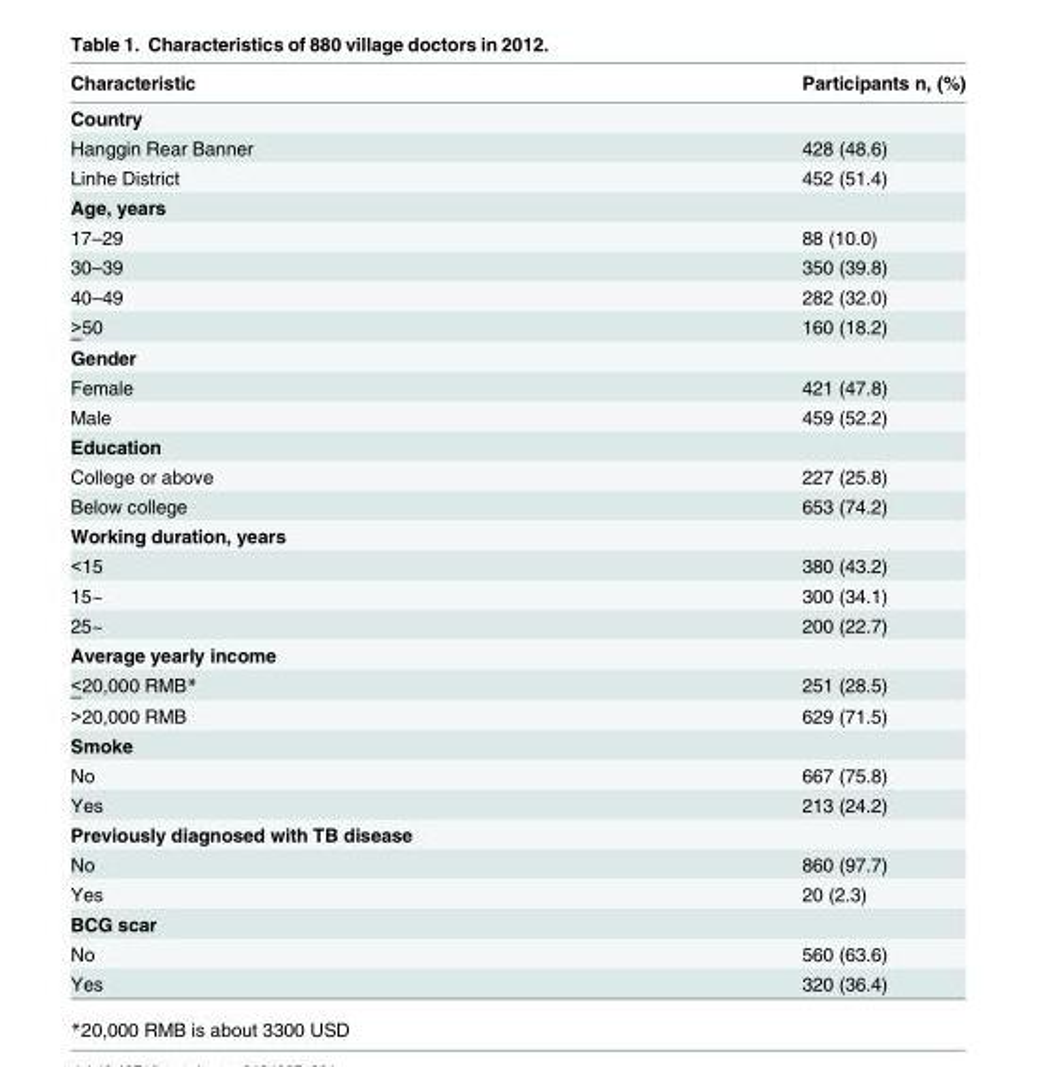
<table><thead><tr><td>Characteristic</td><td>Participants n, (%)</td></tr></thead><tbody><tr><td colspan="2">Country</td></tr><tr><td>Hanggin Rear Banner</td><td>428 (48.6)</td></tr><tr><td>Linhe District</td><td>452 (51.4)</td></tr><tr><td colspan="2">Age, years</td></tr><tr><td>17–29</td><td>88 (10.0)</td></tr><tr><td>30–39</td><td>350 (39.8)</td></tr><tr><td>40–49</td><td>282 (32.0)</td></tr><tr><td>&gt;50</td><td>160 (18.2)</td></tr><tr><td colspan="2">Gender</td></tr><tr><td>Female</td><td>421 (47.8)</td></tr><tr><td>Male</td><td>459 (52.2)</td></tr><tr><td colspan="2">Education</td></tr><tr><td>College or above</td><td>227 (25.8)</td></tr><tr><td>Below college</td><td>653 (74.2)</td></tr><tr><td colspan="2">Working duration, years</td></tr><tr><td>&lt;15</td><td>380 (43.2)</td></tr><tr><td>15~</td><td>300 (34.1)</td></tr><tr><td>25~</td><td>200 (22.7)</td></tr><tr><td colspan="2">Average yearly income</td></tr><tr><td>&lt;20,000 RMB*</td><td>251 (28.5)</td></tr><tr><td>&gt;20,000 RMB</td><td>629 (71.5)</td></tr><tr><td colspan="2">Smoke</td></tr><tr><td>No</td><td>667 (75.8)</td></tr><tr><td>Yes</td><td>213 (24.2)</td></tr><tr><td colspan="2">Previously diagnosed with TB disease</td></tr><tr><td>No</td><td>860 (97.7)</td></tr><tr><td>Yes</td><td>20 (2.3)</td></tr><tr><td colspan="2">BCG scar</td></tr><tr><td>No</td><td>560 (63.6)</td></tr><tr><td>Yes</td><td>320 (36.4)</td></tr></tbody></table>